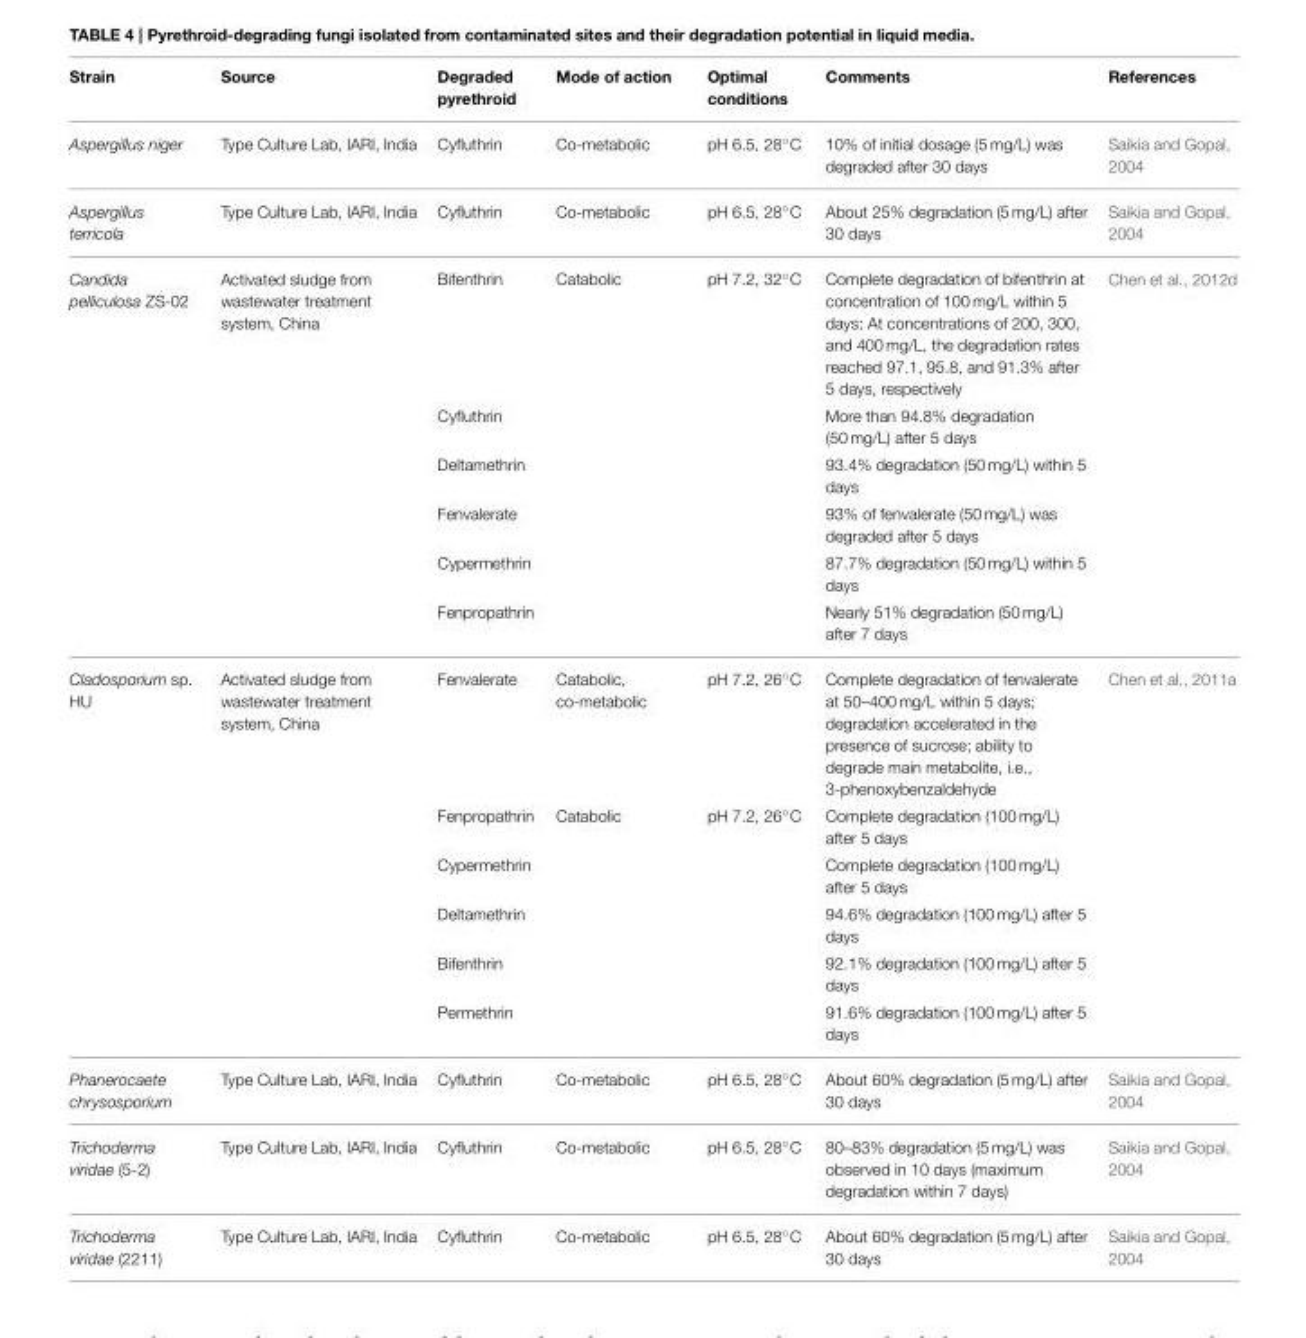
<table><thead><tr><td>Strain</td><td>Source</td><td>Degraded pyrethroid</td><td>Mode of action</td><td>Optimal conditions</td><td>Comments</td><td>References</td></tr></thead><tbody><tr><td>Aspergillus niger</td><td>Type Culture Lab, IARI, India</td><td>Cyfluthrin</td><td>Co-metabolic</td><td>pH 6.5, 28◦C</td><td>10% of initial dosage (5 mg/L) was degraded after 30 days</td><td>Saikia and Gopal, 2004</td></tr><tr><td>Aspergillus terricola</td><td>Type Culture Lab, IARI, India</td><td>Cyfluthrin</td><td>Co-metabolic</td><td>pH 6.5, 28◦C</td><td>About 25% degradation (5 mg/L) after 30 days</td><td>Saikia and Gopal, 2004</td></tr><tr><td rowspan="6">Candida pelliculosa ZS-02</td><td>Activated sludge from wastewater treatment system, China</td><td>Bifenthrin</td><td>Catabolic</td><td>pH 7.2, 32◦C</td><td>Complete degradation of bifenthrin at concentration of 100 mg/L within 5 days; At concentrations of 200, 300, and 400 mg/L, the degradation rates reached 97.1, 95.8, and 91.3% after 5 days, respectively</td><td>Chen et al., 2012d</td></tr><tr><td></td><td>Cyfluthrin</td><td></td><td></td><td>More than 94.8% degradation (50 mg/L) after 5 days</td><td></td></tr><tr><td></td><td>Deltamethrin</td><td></td><td></td><td>93.4% degradation (50 mg/L) within 5 days</td><td></td></tr><tr><td></td><td>Fenvalerate</td><td></td><td></td><td>93% of fenvalerate (50 mg/L) was degraded after 5 days</td><td></td></tr><tr><td></td><td>Cypermethrin</td><td></td><td></td><td>87.7% degradation (50 mg/L) within 5 days</td><td></td></tr><tr><td></td><td>Fenpropathrin</td><td></td><td></td><td>Nearly 51% degradation (50 mg/L) after 7 days</td><td></td></tr><tr><td rowspan="6">Cladosporium sp. HU</td><td>Activated sludge from wastewater treatment system, China</td><td>Fenvalerate</td><td>Catabolic, co-metabolic</td><td>pH 7.2, 26◦C</td><td>Complete degradation of fenvalerate at 50–400 mg/L within 5 days; degradation accelerated in the presence of sucrose; ability to degrade main metabolite, i.e., 3-phenoxybenzaldehyde</td><td>Chen et al., 2011a</td></tr><tr><td></td><td>Fenpropathrin</td><td>Catabolic</td><td>pH 7.2, 26◦C</td><td>Complete degradation (100 mg/L) after 5 days</td><td></td></tr><tr><td></td><td>Cypermethrin</td><td></td><td></td><td>Complete degradation (100 mg/L) after 5 days</td><td></td></tr><tr><td></td><td>Deltamethrin</td><td></td><td></td><td>94.6% degradation (100 mg/L) after 5 days</td><td></td></tr><tr><td></td><td>Bifenthrin</td><td></td><td></td><td>92.1% degradation (100 mg/L) after 5 days</td><td></td></tr><tr><td></td><td>Permethrin</td><td></td><td></td><td>91.6% degradation (100 mg/L) after 5 days</td><td></td></tr><tr><td>Phanerocaete chrysosporium</td><td>Type Culture Lab, IARI, India</td><td>Cyfluthrin</td><td>Co-metabolic</td><td>pH 6.5, 28◦C</td><td>About 60% degradation (5 mg/L) after 30 days</td><td>Saikia and Gopal, 2004</td></tr><tr><td>Trichoderma viridae (5-2)</td><td>Type Culture Lab, IARI, India</td><td>Cyfluthrin</td><td>Co-metabolic</td><td>pH 6.5, 28◦C</td><td>80–83% degradation (5 mg/L) was observed in 10 days (maximum degradation within 7 days)</td><td>Saikia and Gopal, 2004</td></tr><tr><td>Trichoderma viridae (2211)</td><td>Type Culture Lab, IARI, India</td><td>Cyfluthrin</td><td>Co-metabolic</td><td>pH 6.5, 28◦C</td><td>About 60% degradation (5 mg/L) after 30 days</td><td>Saikia and Gopal, 2004</td></tr></tbody></table>